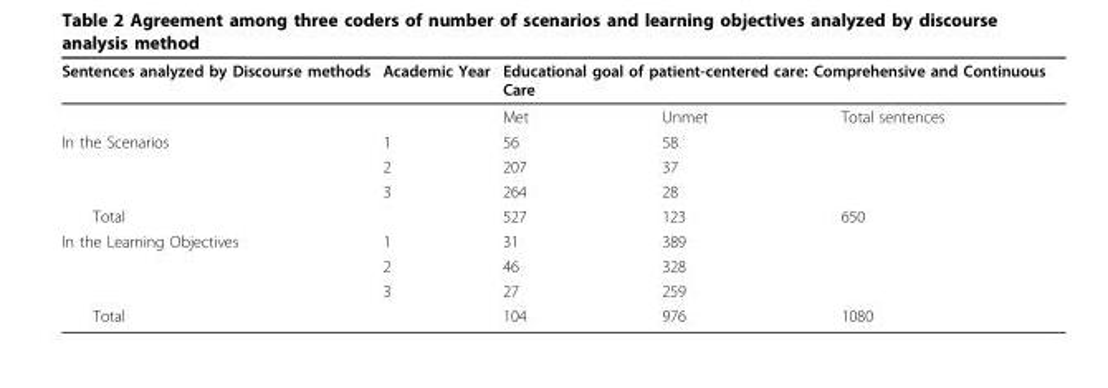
<table><thead><tr><td rowspan="2">Sentences analyzed by Discourse methods</td><td rowspan="2">Academic Year</td><td colspan="3">Educational goal of patient-centered care: Comprehensive and Continuous Care</td></tr><tr><td>Met</td><td>Unmet</td><td>Total sentences</td></tr></thead><tbody><tr><td rowspan="3">In the Scenarios</td><td>1</td><td>56</td><td>58</td><td></td></tr><tr><td>2</td><td>207</td><td>37</td><td></td></tr><tr><td>3</td><td>264</td><td>28</td><td></td></tr><tr><td>Total</td><td></td><td>527</td><td>123</td><td>650</td></tr><tr><td rowspan="3">In the Learning Objectives</td><td>1</td><td>31</td><td>389</td><td></td></tr><tr><td>2</td><td>46</td><td>328</td><td></td></tr><tr><td>3</td><td>27</td><td>259</td><td></td></tr><tr><td>Total</td><td></td><td>104</td><td>976</td><td>1080</td></tr></tbody></table>